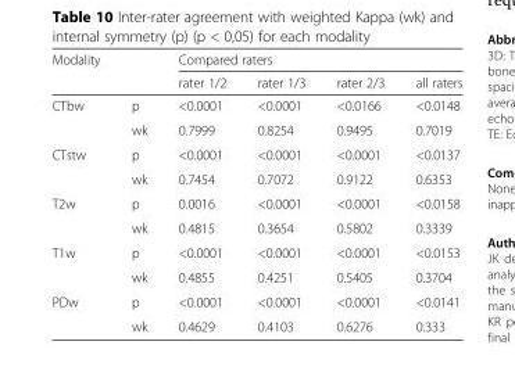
<table><thead><tr><td rowspan="2">Modality</td><td rowspan="2"></td><td colspan="4">Compared raters</td></tr><tr><td>rater 1/2</td><td>rater 1/3</td><td>rater 2/3</td><td>all raters</td></tr></thead><tbody><tr><td rowspan="2">CTbw</td><td>p</td><td>&lt;0.0001</td><td>&lt;0.0001</td><td>&lt;0.0166</td><td>&lt;0.0148</td></tr><tr><td>wk</td><td>0.7999</td><td>0.8254</td><td>0.9495</td><td>0.7019</td></tr><tr><td rowspan="2">CTstw</td><td>p</td><td>&lt;0.0001</td><td>&lt;0.0001</td><td>&lt;0.0001</td><td>&lt;0.0137</td></tr><tr><td>wk</td><td>0.7454</td><td>0.7072</td><td>0.9122</td><td>0.6353</td></tr><tr><td rowspan="2">T2w</td><td>p</td><td>0.0016</td><td>&lt;0.0001</td><td>&lt;0.0001</td><td>&lt;0.0158</td></tr><tr><td>wk</td><td>0.4815</td><td>0.3654</td><td>0.5802</td><td>0.3339</td></tr><tr><td rowspan="2">T1w</td><td>p</td><td>&lt;0.0001</td><td>&lt;0.0001</td><td>&lt;0.0001</td><td>&lt;0.0153</td></tr><tr><td>wk</td><td>0.4855</td><td>0.4251</td><td>0.5405</td><td>0.3704</td></tr><tr><td rowspan="2">PDw</td><td>p</td><td>&lt;0.0001</td><td>&lt;0.0001</td><td>&lt;0.0001</td><td>&lt;0.0141</td></tr><tr><td>wk</td><td>0.4629</td><td>0.4103</td><td>0.6276</td><td>0.333</td></tr></tbody></table>